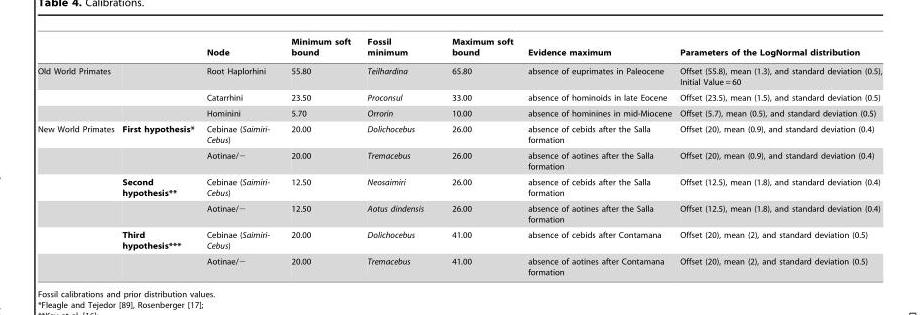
<table><thead><tr><td></td><td></td><td>Node</td><td>Minimum soft bound</td><td>Fossil minimum</td><td>Maximum soft bound</td><td>Evidence maximum</td><td>Parameters of the LogNormal distribution</td></tr></thead><tbody><tr><td rowspan="3">Old World Primates</td><td></td><td>Root Haplorhini</td><td>55.80</td><td>Teilhardina</td><td>65.80</td><td>absence of euprimates in Paleocene</td><td>Offset (55.8), mean (1.3), and standard deviation (0.5), Initial Value = 60</td></tr><tr><td></td><td>Catarrhini</td><td>23.50</td><td>Proconsul</td><td>33.00</td><td>absence of hominoids in late Eocene</td><td>Offset (23.5), mean (1.5), and standard deviation (0.5)</td></tr><tr><td></td><td>Hominini</td><td>5.70</td><td>Orrorin</td><td>10.00</td><td>absence of hominines in mid-Miocene</td><td>Offset (5.7), mean (0.5), and standard deviation (0.5)</td></tr><tr><td rowspan="6">New World Primates</td><td>First hypothesis*</td><td>Cebinae (Saimiri- Cebus)</td><td>20.00</td><td>Dolichocebus</td><td>26.00</td><td>absence of cebids after the Salla formation</td><td>Offset (20), mean (0.9), and standard deviation (0.4)</td></tr><tr><td></td><td>Aotinae/−</td><td>20.00</td><td>Tremacebus</td><td>26.00</td><td>absence of aotines after the Salla formation</td><td>Offset (20), mean (0.9), and standard deviation (0.4)</td></tr><tr><td>Second hypothesis**</td><td>Cebinae (Saimiri- Cebus)</td><td>12.50</td><td>Neosaimiri</td><td>26.00</td><td>absence of cebids after the Salla formation</td><td>Offset (12.5), mean (1.8), and standard deviation (0.4)</td></tr><tr><td></td><td>Aotinae/−</td><td>12.50</td><td>Aotus dindensis</td><td>26.00</td><td>absence of aotines after the Salla formation</td><td>Offset (12.5), mean (1.8), and standard deviation (0.4)</td></tr><tr><td>Third hypothesis***</td><td>Cebinae (Saimiri- Cebus)</td><td>20.00</td><td>Dolichocebus</td><td>41.00</td><td>absence of cebids after Contamana</td><td>Offset (20), mean (2), and standard deviation (0.5)</td></tr><tr><td></td><td>Aotinae/−</td><td>20.00</td><td>Tremacebus</td><td>41.00</td><td>absence of aotines after Contamana formation</td><td>Offset (20), mean (2), and standard deviation (0.5)</td></tr></tbody></table>